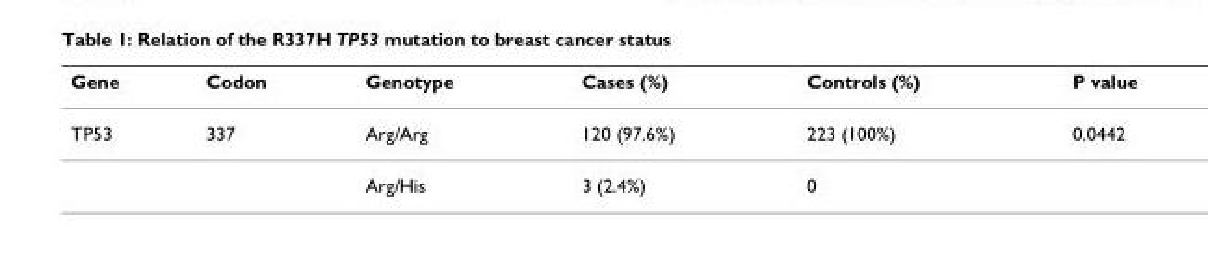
<table><thead><tr><td>Gene</td><td>Codon</td><td>Genotype</td><td>Cases (%)</td><td>Controls (%)</td><td>P value</td></tr></thead><tbody><tr><td rowspan="2">TP53</td><td>337</td><td>Arg/Arg</td><td>120 (97.6%)</td><td>223 (100%)</td><td>0.0442</td></tr><tr><td></td><td>Arg/His</td><td>3 (2.4%)</td><td>0</td><td></td></tr></tbody></table>